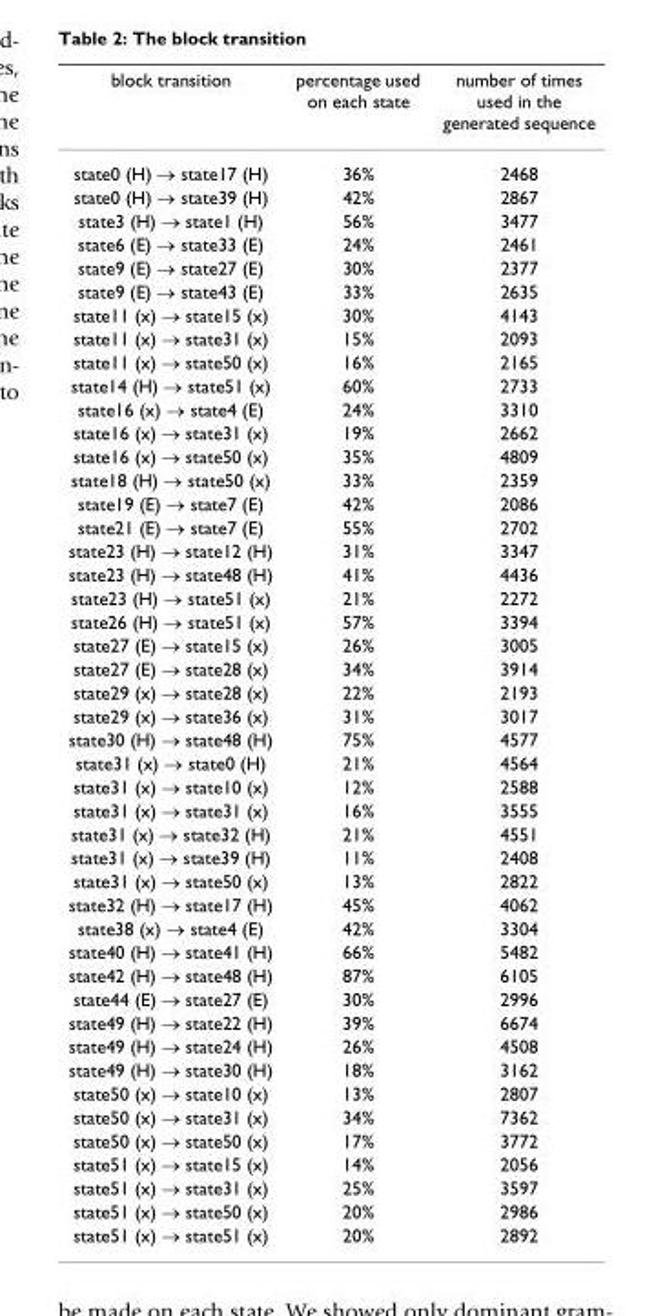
<table><thead><tr><td>block transition</td><td>percentage used on each state</td><td>number of times used in the generated sequence</td></tr></thead><tbody><tr><td>state0 (H) → state17 (H)</td><td>36%</td><td>2468</td></tr><tr><td>state0 (H) → state39 (H)</td><td>42%</td><td>2867</td></tr><tr><td>state3 (H) → state1 (H)</td><td>56%</td><td>3477</td></tr><tr><td>state6 (E) → state33 (E)</td><td>24%</td><td>2461</td></tr><tr><td>state9 (E) → state27 (E)</td><td>30%</td><td>2377</td></tr><tr><td>state9 (E) → state43 (E)</td><td>33%</td><td>2635</td></tr><tr><td>state11 (x) → state15 (x)</td><td>30%</td><td>4143</td></tr><tr><td>state11 (x) → state31 (x)</td><td>15%</td><td>2093</td></tr><tr><td>state11 (x) → state50 (x)</td><td>16%</td><td>2165</td></tr><tr><td>state14 (H) → state51 (x)</td><td>60%</td><td>2733</td></tr><tr><td>state16 (x) → state4 (E)</td><td>24%</td><td>3310</td></tr><tr><td>state16 (x) → state31 (x)</td><td>19%</td><td>2662</td></tr><tr><td>state16 (x) → state50 (x)</td><td>35%</td><td>4809</td></tr><tr><td>state18 (H) → state50 (x)</td><td>33%</td><td>2359</td></tr><tr><td>state19 (E) → state7 (E)</td><td>42%</td><td>2086</td></tr><tr><td>state21 (E) → state7 (E)</td><td>55%</td><td>2702</td></tr><tr><td>state23 (H) → state12 (H)</td><td>31%</td><td>3347</td></tr><tr><td>state23 (H) → state48 (H)</td><td>41%</td><td>4436</td></tr><tr><td>state23 (H) → state51 (x)</td><td>21%</td><td>2272</td></tr><tr><td>state26 (H) → state51 (x)</td><td>57%</td><td>3394</td></tr><tr><td>state27 (E) → state15 (x)</td><td>26%</td><td>3005</td></tr><tr><td>state27 (E) → state28 (x)</td><td>34%</td><td>3914</td></tr><tr><td>state29 (x) → state28 (x)</td><td>22%</td><td>2193</td></tr><tr><td>state29 (x) → state36 (x)</td><td>31%</td><td>3017</td></tr><tr><td>state30 (H) → state48 (H)</td><td>75%</td><td>4577</td></tr><tr><td>state31 (x) → state0 (H)</td><td>21%</td><td>4564</td></tr><tr><td>state31 (x) → state10 (x)</td><td>12%</td><td>2588</td></tr><tr><td>state31 (x) → state31 (x)</td><td>16%</td><td>3555</td></tr><tr><td>state31 (x) → state32 (H)</td><td>21%</td><td>4551</td></tr><tr><td>state31 (x) → state39 (H)</td><td>11%</td><td>2408</td></tr><tr><td>state31 (x) → state50 (x)</td><td>13%</td><td>2822</td></tr><tr><td>state32 (H) → state17 (H)</td><td>45%</td><td>4062</td></tr><tr><td>state38 (x) → state4 (E)</td><td>42%</td><td>3304</td></tr><tr><td>state40 (H) → state41 (H)</td><td>66%</td><td>5482</td></tr><tr><td>state42 (H) → state48 (H)</td><td>87%</td><td>6105</td></tr><tr><td>state44 (E) → state27 (E)</td><td>30%</td><td>2996</td></tr><tr><td>state49 (H) → state22 (H)</td><td>39%</td><td>6674</td></tr><tr><td>state49 (H) → state24 (H)</td><td>26%</td><td>4508</td></tr><tr><td>state49 (H) → state30 (H)</td><td>18%</td><td>3162</td></tr><tr><td>state50 (x) → state10 (x)</td><td>13%</td><td>2807</td></tr><tr><td>state50 (x) → state31 (x)</td><td>34%</td><td>7362</td></tr><tr><td>state50 (x) → state50 (x)</td><td>17%</td><td>3772</td></tr><tr><td>state51 (x) → state15 (x)</td><td>14%</td><td>2056</td></tr><tr><td>state51 (x) → state31 (x)</td><td>25%</td><td>3597</td></tr><tr><td>state51 (x) → state50 (x)</td><td>20%</td><td>2986</td></tr><tr><td>state51 (x) → state51 (x)</td><td>20%</td><td>2892</td></tr></tbody></table>